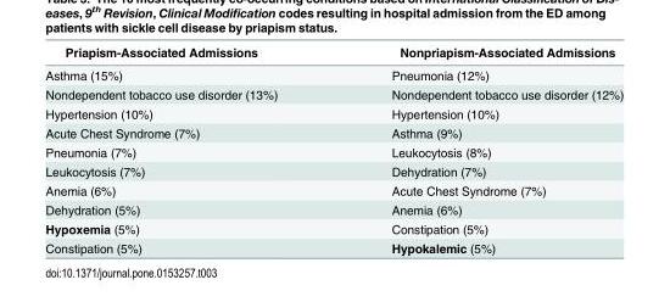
<table><thead><tr><td>Priapism-Associated Admissions</td><td>Nonpriapism-Associated Admissions</td></tr></thead><tbody><tr><td>Asthma (15%)</td><td>Pneumonia (12%)</td></tr><tr><td>Nondependent tobacco use disorder (13%)</td><td>Nondependent tobacco use disorder (12%)</td></tr><tr><td>Hypertension (10%)</td><td>Hypertension (10%)</td></tr><tr><td>Acute Chest Syndrome (7%)</td><td>Asthma (9%)</td></tr><tr><td>Pneumonia (7%)</td><td>Leukocytosis (8%)</td></tr><tr><td>Leukocytosis (7%)</td><td>Dehydration (7%)</td></tr><tr><td>Anemia (6%)</td><td>Acute Chest Syndrome (7%)</td></tr><tr><td>Dehydration (5%)</td><td>Anemia (6%)</td></tr><tr><td>Hypoxemia (5%)</td><td>Constipation (5%)</td></tr><tr><td>Constipation (5%)</td><td>Hypokalemic (5%)</td></tr></tbody></table>